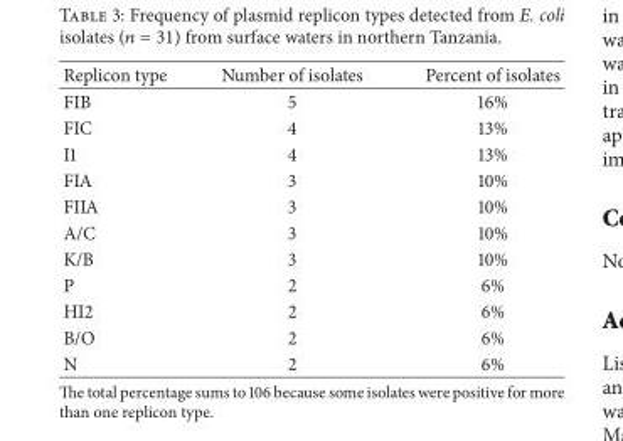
<table><thead><tr><td>Replicon type</td><td>Number of isolates</td><td>Percent of isolates</td></tr></thead><tbody><tr><td>FIB</td><td>5</td><td>16%</td></tr><tr><td>FIC</td><td>4</td><td>13%</td></tr><tr><td>I1</td><td>4</td><td>13%</td></tr><tr><td>FIA</td><td>3</td><td>10%</td></tr><tr><td>FIIA</td><td>3</td><td>10%</td></tr><tr><td>A/C</td><td>3</td><td>10%</td></tr><tr><td>K/B</td><td>3</td><td>10%</td></tr><tr><td>P</td><td>2</td><td>6%</td></tr><tr><td>HI2</td><td>2</td><td>6%</td></tr><tr><td>B/O</td><td>2</td><td>6%</td></tr><tr><td>N</td><td>2</td><td>6%</td></tr></tbody></table>